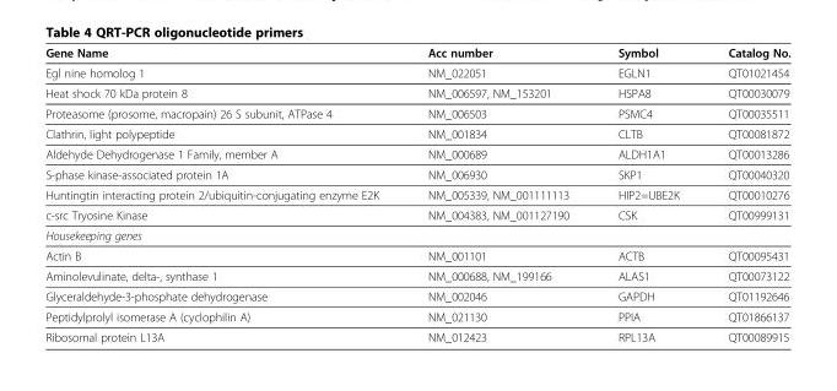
<table><thead><tr><td>Gene Name</td><td>Acc number</td><td>Symbol</td><td>Catalog No.</td></tr></thead><tbody><tr><td>Egl nine homolog 1</td><td>NM_022051</td><td>EGLN1</td><td>QT01021454</td></tr><tr><td>Heat shock 70 kDa protein 8</td><td>NM_006597, NM_153201</td><td>HSPA8</td><td>QT00030079</td></tr><tr><td>Proteasome (prosome, macropain) 26 S subunit, ATPase 4</td><td>NM_006503</td><td>PSMC4</td><td>QT00035511</td></tr><tr><td>Clathrin, light polypeptide</td><td>NM_001834</td><td>CLTB</td><td>QT00081872</td></tr><tr><td>Aldehyde Dehydrogenase 1 Family, member A</td><td>NM_000689</td><td>ALDH1A1</td><td>QT00013286</td></tr><tr><td>S-phase kinase-associated protein 1A</td><td>NM_006930</td><td>SKP1</td><td>QT00040320</td></tr><tr><td>Huntingtin interacting protein 2/ubiquitin-conjugating enzyme E2K</td><td>NM_005339, NM_001111113</td><td>HIP2=UBE2K</td><td>QT00010276</td></tr><tr><td>c-src Tryosine Kinase</td><td>NM_004383, NM_001127190</td><td>CSK</td><td>QT00999131</td></tr><tr><td colspan="4">Housekeeping genes</td></tr><tr><td>Actin B</td><td>NM_001101</td><td>ACTB</td><td>QT00095431</td></tr><tr><td>Aminolevulinate, delta-, synthase 1</td><td>NM_000688, NM_199166</td><td>ALAS1</td><td>QT00073122</td></tr><tr><td>Glyceraldehyde-3-phosphate dehydrogenase</td><td>NM_002046</td><td>GAPDH</td><td>QT01192646</td></tr><tr><td>Peptidylprolyl isomerase A (cyclophilin A)</td><td>NM_021130</td><td>PPIA</td><td>QT01866137</td></tr><tr><td>Ribosomal protein L13A</td><td>NM_012423</td><td>RPL13A</td><td>QT00089915</td></tr></tbody></table>